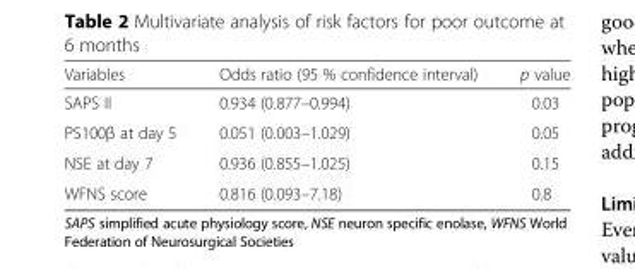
<table><thead><tr><td>Variables</td><td>Odds ratio (95 % confidence interval)</td><td>p value</td></tr></thead><tbody><tr><td>SAPS II</td><td>0.934 (0.877–0.994)</td><td>0.03</td></tr><tr><td>PS100β at day 5</td><td>0.051 (0.003–1.029)</td><td>0.05</td></tr><tr><td>NSE at day 7</td><td>0.936 (0.855–1.025)</td><td>0.15</td></tr><tr><td>WFNS score</td><td>0.816 (0.093–7.18)</td><td>0.8</td></tr></tbody></table>